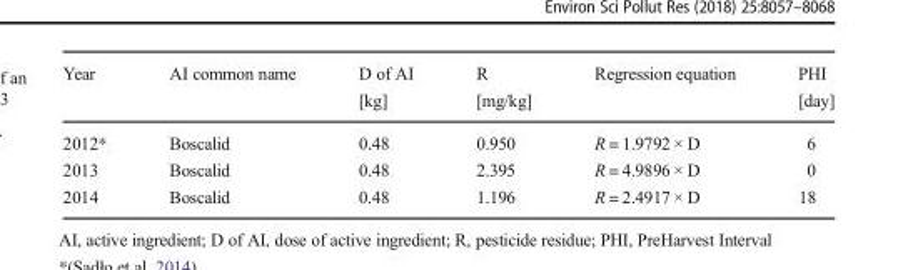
<table><thead><tr><td>Year</td><td>AI common name</td><td>D of AI [kg]</td><td>R [mg/kg]</td><td>Regression equation</td><td>PHI [day]</td></tr></thead><tbody><tr><td>2012*</td><td>Boscalid</td><td>0.48</td><td>0.950</td><td>R = 1.9792 × D</td><td>6</td></tr><tr><td>2013</td><td>Boscalid</td><td>0.48</td><td>2.395</td><td>R = 4.9896 × D</td><td>0</td></tr><tr><td>2014</td><td>Boscalid</td><td>0.48</td><td>1.196</td><td>R = 2.4917 × D</td><td>18</td></tr></tbody></table>